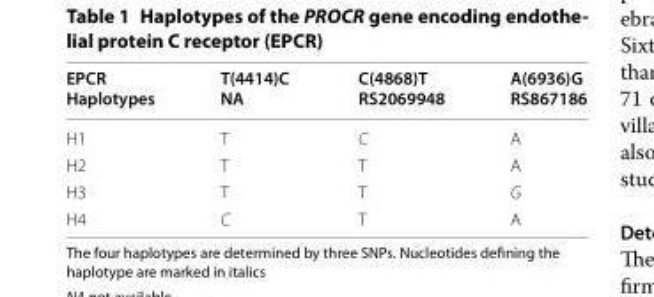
<table><thead><tr><td>EPCR Haplotypes</td><td>T(4414)C NA</td><td>C(4868)T RS2069948</td><td>A(6936)G RS867186</td></tr></thead><tbody><tr><td>H1</td><td>T</td><td>C</td><td>A</td></tr><tr><td>H2</td><td>T</td><td>T</td><td>A</td></tr><tr><td>H3</td><td>T</td><td>T</td><td>G</td></tr><tr><td>H4</td><td>C</td><td>T</td><td>A</td></tr></tbody></table>